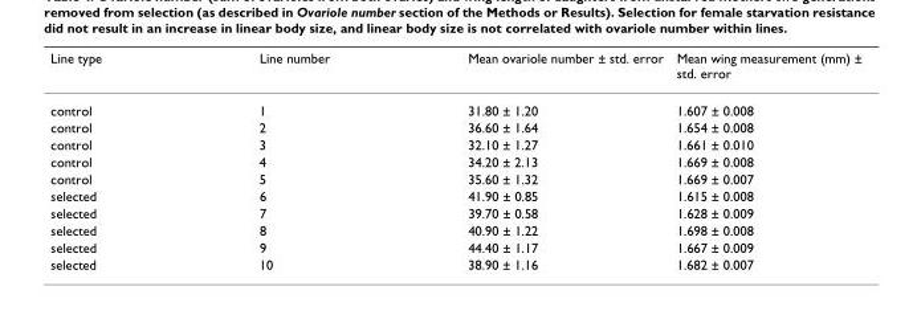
<table><thead><tr><td>Line type</td><td>Line number</td><td>Mean ovariole number ± std. error</td><td>Mean wing measurement (mm) ± std. error</td></tr></thead><tbody><tr><td>control</td><td>1</td><td>31.80 ± 1.20</td><td>1.607 ± 0.008</td></tr><tr><td>control</td><td>2</td><td>36.60 ± 1.64</td><td>1.654 ± 0.008</td></tr><tr><td>control</td><td>3</td><td>32.10 ± 1.27</td><td>1.661 ± 0.010</td></tr><tr><td>control</td><td>4</td><td>34.20 ± 2.13</td><td>1.669 ± 0.008</td></tr><tr><td>control</td><td>5</td><td>35.60 ± 1.32</td><td>1.669 ± 0.007</td></tr><tr><td>selected</td><td>6</td><td>41.90 ± 0.85</td><td>1.615 ± 0.008</td></tr><tr><td>selected</td><td>7</td><td>39.70 ± 0.58</td><td>1.628 ± 0.009</td></tr><tr><td>selected</td><td>8</td><td>40.90 ± 1.22</td><td>1.698 ± 0.008</td></tr><tr><td>selected</td><td>9</td><td>44.40 ± 1.17</td><td>1.667 ± 0.009</td></tr><tr><td>selected</td><td>10</td><td>38.90 ± 1.16</td><td>1.682 ± 0.007</td></tr></tbody></table>